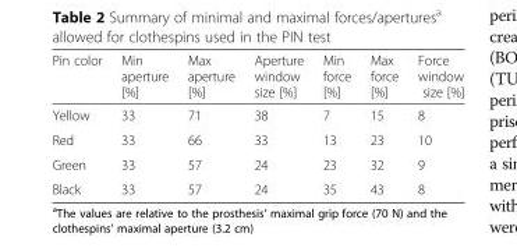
<table><thead><tr><td>Pin color</td><td>Min aperture [%]</td><td>Max aperture [%]</td><td>Aperture window size [%]</td><td>Min force [%]</td><td>Max force [%]</td><td>Force window size [%]</td></tr></thead><tbody><tr><td>Yellow</td><td>33</td><td>71</td><td>38</td><td>7</td><td>15</td><td>8</td></tr><tr><td>Red</td><td>33</td><td>66</td><td>33</td><td>13</td><td>23</td><td>10</td></tr><tr><td>Green</td><td>33</td><td>57</td><td>24</td><td>23</td><td>32</td><td>9</td></tr><tr><td>Black</td><td>33</td><td>57</td><td>24</td><td>35</td><td>43</td><td>8</td></tr></tbody></table>